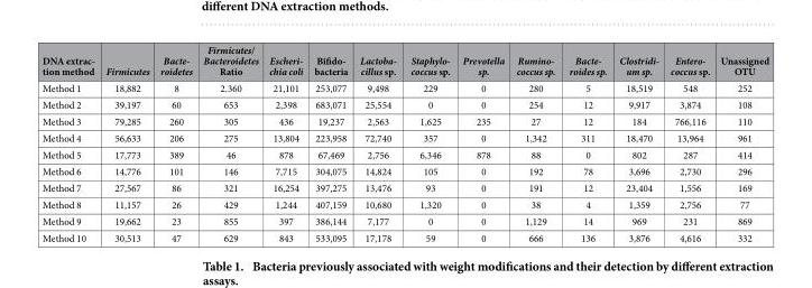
<table><thead><tr><td>DNA extrac- tion method</td><td>Firmicutes</td><td>Bacte- roidetes</td><td>Firmicutes/ Bacteroidetes Ratio</td><td>Escheri- chia coli</td><td>Bifido- bacteria</td><td>Lactoba- cillus sp.</td><td>Staphylo- coccus sp.</td><td>Prevotella sp.</td><td>Rumino- coccus sp.</td><td>Bacte- roides sp.</td><td>Clostridi- um sp.</td><td>Entero- coccus sp.</td><td>Unassigned OTU</td></tr></thead><tbody><tr><td>Method 1</td><td>18,882</td><td>8</td><td>2.360</td><td>21,101</td><td>253,077</td><td>9,498</td><td>229</td><td>0</td><td>280</td><td>5</td><td>18,519</td><td>548</td><td>252</td></tr><tr><td>Method 2</td><td>39,197</td><td>60</td><td>653</td><td>2,398</td><td>683,071</td><td>25,554</td><td>0</td><td>0</td><td>254</td><td>12</td><td>9,917</td><td>3,874</td><td>108</td></tr><tr><td>Method 3</td><td>79,285</td><td>260</td><td>305</td><td>436</td><td>19,237</td><td>2,563</td><td>1,625</td><td>235</td><td>27</td><td>12</td><td>184</td><td>766,116</td><td>110</td></tr><tr><td>Method 4</td><td>56,633</td><td>206</td><td>275</td><td>13,804</td><td>223,958</td><td>72,740</td><td>357</td><td>0</td><td>1,342</td><td>311</td><td>18,470</td><td>13,964</td><td>961</td></tr><tr><td>Method 5</td><td>17,773</td><td>389</td><td>46</td><td>878</td><td>67,469</td><td>2,756</td><td>6,346</td><td>878</td><td>88</td><td>0</td><td>802</td><td>287</td><td>414</td></tr><tr><td>Method 6</td><td>14,776</td><td>101</td><td>146</td><td>7,715</td><td>304,075</td><td>14,824</td><td>105</td><td>0</td><td>192</td><td>78</td><td>3,696</td><td>2,730</td><td>296</td></tr><tr><td>Method 7</td><td>27,567</td><td>86</td><td>321</td><td>16,254</td><td>397,275</td><td>13,476</td><td>93</td><td>0</td><td>191</td><td>12</td><td>23,404</td><td>1,556</td><td>169</td></tr><tr><td>Method 8</td><td>11,157</td><td>26</td><td>429</td><td>1,244</td><td>407,159</td><td>10,680</td><td>1,320</td><td>0</td><td>38</td><td>4</td><td>1,359</td><td>2,756</td><td>77</td></tr><tr><td>Method 9</td><td>19,662</td><td>23</td><td>855</td><td>397</td><td>386,144</td><td>7,177</td><td>0</td><td>0</td><td>1,129</td><td>14</td><td>969</td><td>231</td><td>869</td></tr><tr><td>Method 10</td><td>30,513</td><td>47</td><td>629</td><td>843</td><td>533,095</td><td>17,178</td><td>59</td><td>0</td><td>666</td><td>136</td><td>3,876</td><td>4,616</td><td>332</td></tr></tbody></table>